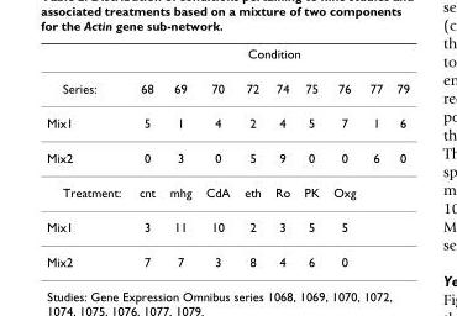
<table><thead><tr><td rowspan="2">Series:</td><td colspan="9">Condition</td></tr><tr><td>68</td><td>69</td><td>70</td><td>72</td><td>74</td><td>75</td><td>76</td><td>77</td><td>79</td></tr></thead><tbody><tr><td>Mix1</td><td>5</td><td>1</td><td>4</td><td>2</td><td>4</td><td>5</td><td>7</td><td>1</td><td>6</td></tr><tr><td>Mix2</td><td>0</td><td>3</td><td>0</td><td>5</td><td>9</td><td>0</td><td>0</td><td>6</td><td>0</td></tr><tr><td>Treatment:</td><td>cnt</td><td>mhg</td><td>CdA</td><td>eth</td><td>Ro</td><td>PK</td><td>Oxg</td><td></td><td></td></tr><tr><td>Mix1</td><td>3</td><td>11</td><td>10</td><td>2</td><td>3</td><td>5</td><td>5</td><td></td><td></td></tr><tr><td>Mix2</td><td>7</td><td>7</td><td>3</td><td>8</td><td>4</td><td>6</td><td>0</td><td></td><td></td></tr></tbody></table>